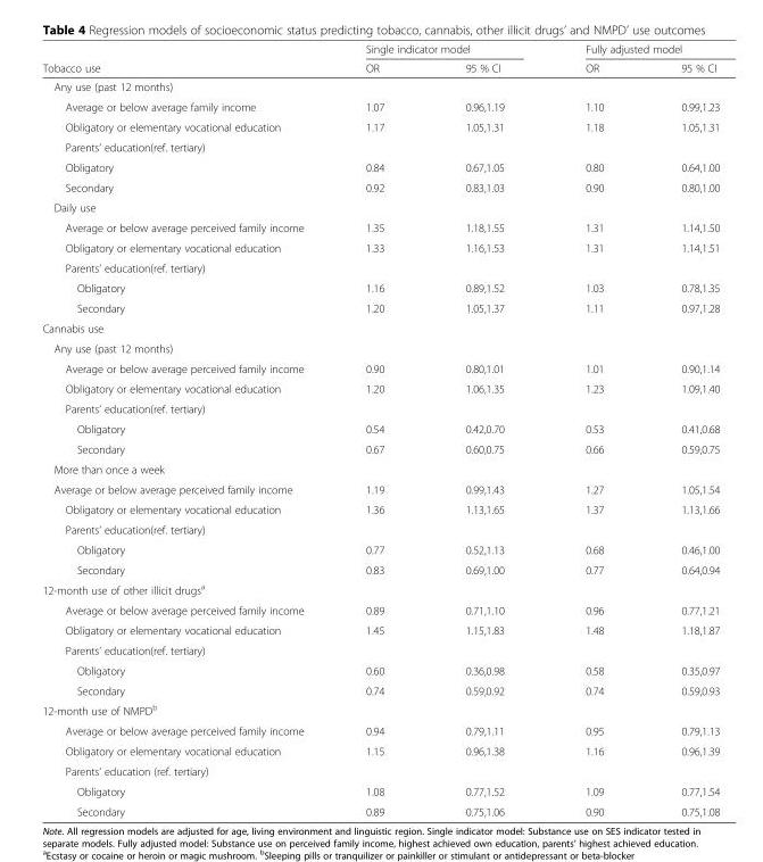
<table><thead><tr><td rowspan="2">Tobacco use</td><td colspan="2">Single indicator model</td><td colspan="2">Fully adjusted model</td></tr><tr><td>OR</td><td>95 % CI</td><td>OR</td><td>95 % CI</td></tr></thead><tbody><tr><td colspan="5">Any use (past 12 months)</td></tr><tr><td>Average or below average family income</td><td>1.07</td><td>0.96,1.19</td><td>1.10</td><td>0.99,1.23</td></tr><tr><td>Obligatory or elementary vocational education</td><td>1.17</td><td>1.05,1.31</td><td>1.18</td><td>1.05,1.31</td></tr><tr><td colspan="5">Parents’ education(ref. tertiary)</td></tr><tr><td>Obligatory</td><td>0.84</td><td>0.67,1.05</td><td>0.80</td><td>0.64,1.00</td></tr><tr><td>Secondary</td><td>0.92</td><td>0.83,1.03</td><td>0.90</td><td>0.80,1.00</td></tr><tr><td colspan="5">Daily use</td></tr><tr><td>Average or below average perceived family income</td><td>1.35</td><td>1.18,1.55</td><td>1.31</td><td>1.14,1.50</td></tr><tr><td>Obligatory or elementary vocational education</td><td>1.33</td><td>1.16,1.53</td><td>1.31</td><td>1.14,1.51</td></tr><tr><td colspan="5">Parents’ education(ref. tertiary)</td></tr><tr><td>Obligatory</td><td>1.16</td><td>0.89,1.52</td><td>1.03</td><td>0.78,1.35</td></tr><tr><td>Secondary</td><td>1.20</td><td>1.05,1.37</td><td>1.11</td><td>0.97,1.28</td></tr><tr><td colspan="5">Cannabis use</td></tr><tr><td colspan="5">Any use (past 12 months)</td></tr><tr><td>Average or below average perceived family income</td><td>0.90</td><td>0.80,1.01</td><td>1.01</td><td>0.90,1.14</td></tr><tr><td>Obligatory or elementary vocational education</td><td>1.20</td><td>1.06,1.35</td><td>1.23</td><td>1.09,1.40</td></tr><tr><td colspan="5">Parents’ education(ref. tertiary)</td></tr><tr><td>Obligatory</td><td>0.54</td><td>0.42,0.70</td><td>0.53</td><td>0.41,0.68</td></tr><tr><td>Secondary</td><td>0.67</td><td>0.60,0.75</td><td>0.66</td><td>0.59,0.75</td></tr><tr><td colspan="5">More than once a week</td></tr><tr><td>Average or below average perceived family income</td><td>1.19</td><td>0.99,1.43</td><td>1.27</td><td>1.05,1.54</td></tr><tr><td>Obligatory or elementary vocational education</td><td>1.36</td><td>1.13,1.65</td><td>1.37</td><td>1.13,1.66</td></tr><tr><td colspan="5">Parents’ education(ref. tertiary)</td></tr><tr><td>Obligatory</td><td>0.77</td><td>0.52,1.13</td><td>0.68</td><td>0.46,1.00</td></tr><tr><td>Secondary</td><td>0.83</td><td>0.69,1.00</td><td>0.77</td><td>0.64,0.94</td></tr><tr><td colspan="5">12-month use of other illicit drugs<sup>a</sup></td></tr><tr><td>Average or below average perceived family income</td><td>0.89</td><td>0.71,1.10</td><td>0.96</td><td>0.77,1.21</td></tr><tr><td>Obligatory or elementary vocational education</td><td>1.45</td><td>1.15,1.83</td><td>1.48</td><td>1.18,1.87</td></tr><tr><td colspan="5">Parents’ education(ref. tertiary)</td></tr><tr><td>Obligatory</td><td>0.60</td><td>0.36,0.98</td><td>0.58</td><td>0.35,0.97</td></tr><tr><td>Secondary</td><td>0.74</td><td>0.59,0.92</td><td>0.74</td><td>0.59,0.93</td></tr><tr><td colspan="5">12-month use of NMPD<sup>b</sup></td></tr><tr><td>Average or below average perceived family income</td><td>0.94</td><td>0.79,1.11</td><td>0.95</td><td>0.79,1.13</td></tr><tr><td>Obligatory or elementary vocational education</td><td>1.15</td><td>0.96,1.38</td><td>1.16</td><td>0.96,1.39</td></tr><tr><td colspan="5">Parents’ education (ref. tertiary)</td></tr><tr><td>Obligatory</td><td>1.08</td><td>0.77,1.52</td><td>1.09</td><td>0.77,1.54</td></tr><tr><td>Secondary</td><td>0.89</td><td>0.75,1.06</td><td>0.90</td><td>0.75,1.08</td></tr></tbody></table>